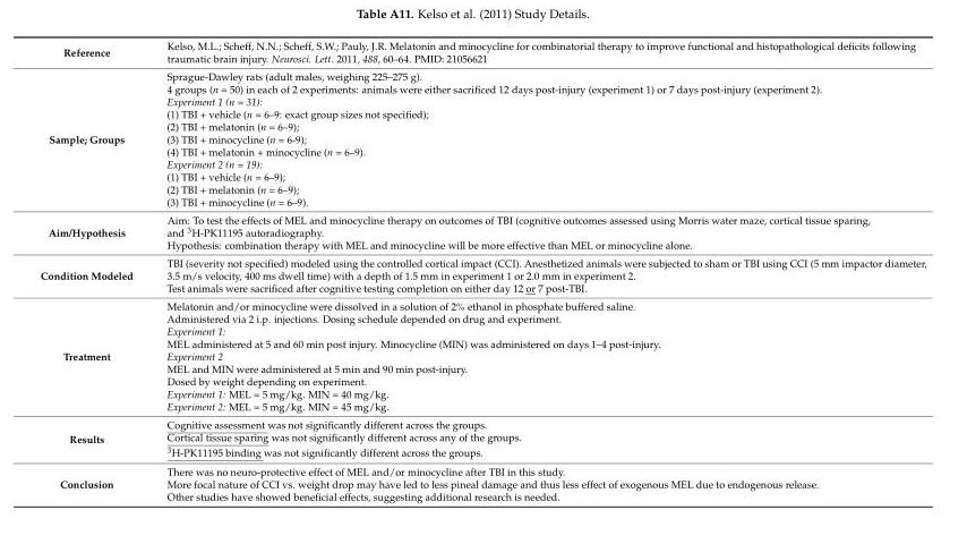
<table><tbody><tr><td>Reference</td><td>Kelso, M.L.; Scheff, N.N.; Scheff, S.W.; Pauly, J.R. Melatonin and minocycline for combinatorial therapy to improve functional and histopathological deficits following traumatic brain injury. Neurosci. Lett. 2011, 488, 60–64. PMID: 21056621</td></tr><tr><td>Sample; Groups</td><td>Sprague-Dawley rats (adult males, weighing 225–275 g). 4 groups (n = 50) in each of 2 experiments: animals were either sacrificed 12 days post-injury (experiment 1) or 7 days post-injury (experiment 2). Experiment 1 (n = 31): (1) TBI + vehicle (n = 6–9: exact group sizes not specified); (2) TBI + melatonin (n = 6–9); (3) TBI + minocycline (n = 6-9); (4) TBI + melatonin + minocycline (n = 6–9). Experiment 2 (n = 19): (1) TBI + vehicle (n = 6–9); (2) TBI + melatonin (n = 6–9); (3) TBI + minocycline (n = 6–9).</td></tr><tr><td>Aim/Hypothesis</td><td>Aim: To test the effects of MEL and minocycline therapy on outcomes of TBI (cognitive outcomes assessed using Morris water maze, cortical tissue sparing, and <sup>3</sup>H-PK11195 autoradiography. Hypothesis: combination therapy with MEL and minocycline will be more effective than MEL or minocycline alone.</td></tr><tr><td>Condition Modeled</td><td>TBI (severity not specified) modeled using the controlled cortical impact (CCI). Anesthetized animals were subjected to sham or TBI using CCI (5 mm impactor diameter, 3.5 m/s velocity, 400 ms dwell time) with a depth of 1.5 mm in experiment 1 or 2.0 mm in experiment 2. Test animals were sacrificed after cognitive testing completion on either day 12 or 7 post-TBI.</td></tr><tr><td>Treatment</td><td>Melatonin and/or minocycline were dissolved in a solution of 2% ethanol in phosphate buffered saline. Administered via 2 i.p. injections. Dosing schedule depended on drug and experiment. Experiment 1: MEL administered at 5 and 60 min post injury. Minocycline (MIN) was administered on days 1–4 post-injury. Experiment 2 MEL and MIN were administered at 5 min and 90 min post-injury. Dosed by weight depending on experiment. Experiment 1: MEL = 5 mg/kg. MIN = 40 mg/kg. Experiment 2: MEL = 5 mg/kg. MIN = 45 mg/kg.</td></tr><tr><td>Results</td><td>Cognitive assessment was not significantly different across the groups. Cortical tissue sparing was not significantly different across any of the groups. <sup>3</sup>H-PK11195 binding was not significantly different across the groups.</td></tr><tr><td>Conclusion</td><td>There was no neuro-protective effect of MEL and/or minocycline after TBI in this study. More focal nature of CCI vs. weight drop may have led to less pineal damage and thus less effect of exogenous MEL due to endogenous release. Other studies have showed beneficial effects, suggesting additional research is needed.</td></tr></tbody></table>